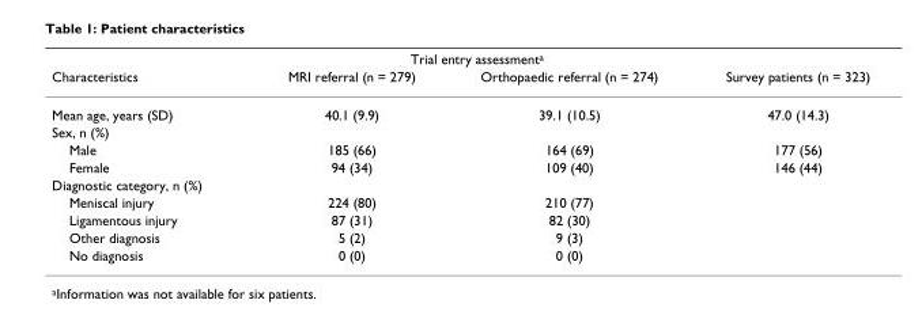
<table><thead><tr><td rowspan="2">Characteristics</td><td colspan="2">Trial entry assessment<sup>a</sup></td><td rowspan="2">Survey patients (n = 323)</td></tr><tr><td>MRI referral (n = 279)</td><td>Orthopaedic referral (n = 274)</td></tr></thead><tbody><tr><td>Mean age, years (SD)</td><td>40.1 (9.9)</td><td>39.1 (10.5)</td><td>47.0 (14.3)</td></tr><tr><td colspan="4">Sex, n (%)</td></tr><tr><td>Male</td><td>185 (66)</td><td>164 (69)</td><td>177 (56)</td></tr><tr><td>Female</td><td>94 (34)</td><td>109 (40)</td><td>146 (44)</td></tr><tr><td colspan="4">Diagnostic category, n (%)</td></tr><tr><td>Meniscal injury</td><td>224 (80)</td><td>210 (77)</td><td></td></tr><tr><td>Ligamentous injury</td><td>87 (31)</td><td>82 (30)</td><td></td></tr><tr><td>Other diagnosis</td><td>5 (2)</td><td>9 (3)</td><td></td></tr><tr><td>No diagnosis</td><td>0 (0)</td><td>0 (0)</td><td></td></tr></tbody></table>